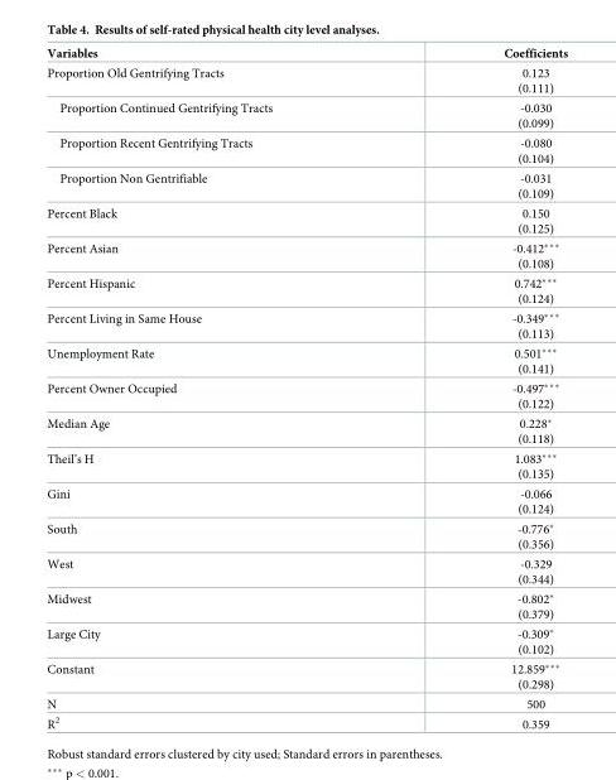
<table><thead><tr><td>Variables</td><td>Coefficients</td></tr></thead><tbody><tr><td>Proportion Old Gentrifying Tracts</td><td>0.123 (0.111)</td></tr><tr><td>Proportion Continued Gentrifying Tracts</td><td>-0.030 (0.099)</td></tr><tr><td>Proportion Recent Gentrifying Tracts</td><td>-0.080 (0.104)</td></tr><tr><td>Proportion Non Gentrifiable</td><td>-0.031 (0.109)</td></tr><tr><td>Percent Black</td><td>0.150 (0.125)</td></tr><tr><td>Percent Asian</td><td>-0.412*** (0.108)</td></tr><tr><td>Percent Hispanic</td><td>0.742*** (0.124)</td></tr><tr><td>Percent Living in Same House</td><td>-0.349*** (0.113)</td></tr><tr><td>Unemployment Rate</td><td>0.501*** (0.141)</td></tr><tr><td>Percent Owner Occupied</td><td>-0.497*** (0.122)</td></tr><tr><td>Median Age</td><td>0.228* (0.118)</td></tr><tr><td>Theil’s H</td><td>1.083*** (0.135)</td></tr><tr><td>Gini</td><td>-0.066 (0.124)</td></tr><tr><td>South</td><td>-0.776* (0.356)</td></tr><tr><td>West</td><td>-0.329 (0.344)</td></tr><tr><td>Midwest</td><td>-0.802* (0.379)</td></tr><tr><td>Large City</td><td>-0.309* (0.102)</td></tr><tr><td>Constant</td><td>12.859*** (0.298)</td></tr><tr><td>N</td><td>500</td></tr><tr><td>R<sup>2</sup></td><td>0.359</td></tr></tbody></table>